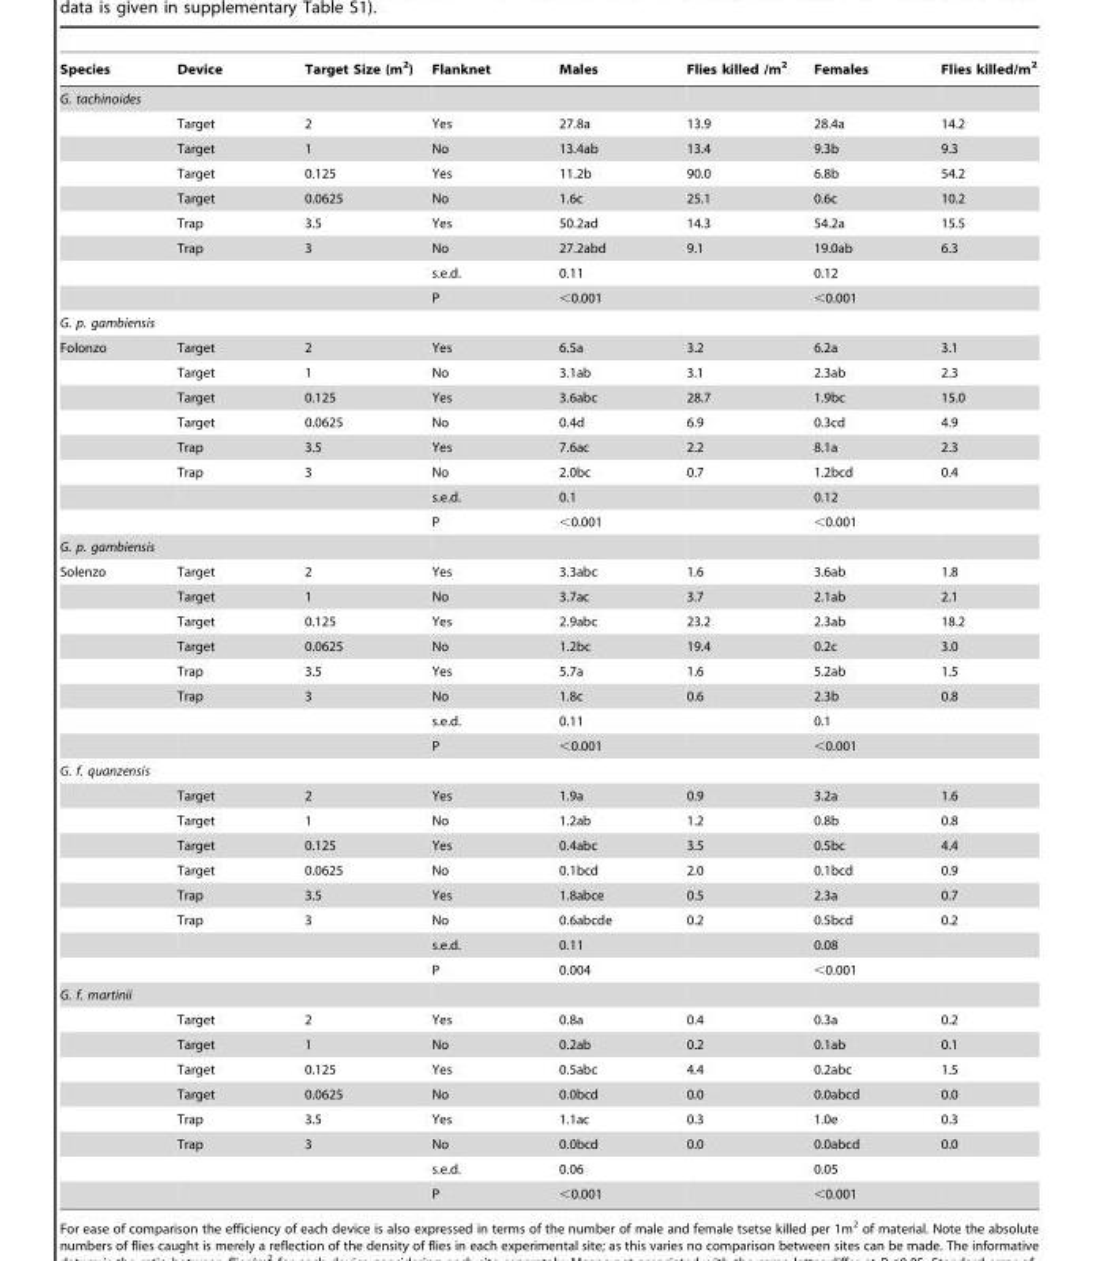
<table><thead><tr><td>Species</td><td>Device</td><td>Target Size (m<sup>2</sup>)</td><td>Flanknet</td><td>Males</td><td>Flies killed /m<sup>2</sup></td><td>Females</td><td>Flies killed/m<sup>2</sup></td></tr></thead><tbody><tr><td colspan="8">G. tachinoides</td></tr><tr><td></td><td>Target</td><td>2</td><td>Yes</td><td>27.8a</td><td>13.9</td><td>28.4a</td><td>14.2</td></tr><tr><td></td><td>Target</td><td>1</td><td>No</td><td>13.4ab</td><td>13.4</td><td>9.3b</td><td>9.3</td></tr><tr><td></td><td>Target</td><td>0.125</td><td>Yes</td><td>11.2b</td><td>90.0</td><td>6.8b</td><td>54.2</td></tr><tr><td></td><td>Target</td><td>0.0625</td><td>No</td><td>1.6c</td><td>25.1</td><td>0.6c</td><td>10.2</td></tr><tr><td></td><td>Trap</td><td>3.5</td><td>Yes</td><td>50.2ad</td><td>14.3</td><td>54.2a</td><td>15.5</td></tr><tr><td></td><td>Trap</td><td>3</td><td>No</td><td>27.2abd</td><td>9.1</td><td>19.0ab</td><td>6.3</td></tr><tr><td></td><td></td><td></td><td>s.e.d.</td><td>0.11</td><td></td><td>0.12</td><td></td></tr><tr><td></td><td></td><td></td><td>P</td><td>&lt;0.001</td><td></td><td>&lt;0.001</td><td></td></tr><tr><td colspan="8">G. p. gambiensis</td></tr><tr><td rowspan="8">Folonzo</td><td>Target</td><td>2</td><td>Yes</td><td>6.5a</td><td>3.2</td><td>6.2a</td><td>3.1</td></tr><tr><td>Target</td><td>1</td><td>No</td><td>3.1ab</td><td>3.1</td><td>2.3ab</td><td>2.3</td></tr><tr><td>Target</td><td>0.125</td><td>Yes</td><td>3.6abc</td><td>28.7</td><td>1.9bc</td><td>15.0</td></tr><tr><td>Target</td><td>0.0625</td><td>No</td><td>0.4d</td><td>6.9</td><td>0.3cd</td><td>4.9</td></tr><tr><td>Trap</td><td>3.5</td><td>Yes</td><td>7.6ac</td><td>2.2</td><td>8.1a</td><td>2.3</td></tr><tr><td>Trap</td><td>3</td><td>No</td><td>2.0bc</td><td>0.7</td><td>1.2bcd</td><td>0.4</td></tr><tr><td></td><td></td><td>s.e.d.</td><td>0.1</td><td></td><td>0.12</td><td></td></tr><tr><td></td><td></td><td>P</td><td>&lt;0.001</td><td></td><td>&lt;0.001</td><td></td></tr><tr><td colspan="8">G. p. gambiensis</td></tr><tr><td rowspan="8">Solenzo</td><td>Target</td><td>2</td><td>Yes</td><td>3.3abc</td><td>1.6</td><td>3.6ab</td><td>1.8</td></tr><tr><td>Target</td><td>1</td><td>No</td><td>3.7ac</td><td>3.7</td><td>2.1ab</td><td>2.1</td></tr><tr><td>Target</td><td>0.125</td><td>Yes</td><td>2.9abc</td><td>23.2</td><td>2.3ab</td><td>18.2</td></tr><tr><td>Target</td><td>0.0625</td><td>No</td><td>1.2bc</td><td>19.4</td><td>0.2c</td><td>3.0</td></tr><tr><td>Trap</td><td>3.5</td><td>Yes</td><td>5.7a</td><td>1.6</td><td>5.2ab</td><td>1.5</td></tr><tr><td>Trap</td><td>3</td><td>No</td><td>1.8c</td><td>0.6</td><td>2.3b</td><td>0.8</td></tr><tr><td></td><td></td><td>s.e.d.</td><td>0.11</td><td></td><td>0.1</td><td></td></tr><tr><td></td><td></td><td>P</td><td>&lt;0.001</td><td></td><td>&lt;0.001</td><td></td></tr><tr><td colspan="8">G. f. quanzensis</td></tr><tr><td></td><td>Target</td><td>2</td><td>Yes</td><td>1.9a</td><td>0.9</td><td>3.2a</td><td>1.6</td></tr><tr><td></td><td>Target</td><td>1</td><td>No</td><td>1.2ab</td><td>1.2</td><td>0.8b</td><td>0.8</td></tr><tr><td></td><td>Target</td><td>0.125</td><td>Yes</td><td>0.4abc</td><td>3.5</td><td>0.5bc</td><td>4.4</td></tr><tr><td></td><td>Target</td><td>0.0625</td><td>No</td><td>0.1bcd</td><td>2.0</td><td>0.1bcd</td><td>0.9</td></tr><tr><td></td><td>Trap</td><td>3.5</td><td>Yes</td><td>1.8abce</td><td>0.5</td><td>2.3a</td><td>0.7</td></tr><tr><td></td><td>Trap</td><td>3</td><td>No</td><td>0.6abcde</td><td>0.2</td><td>0.5bcd</td><td>0.2</td></tr><tr><td></td><td></td><td></td><td>s.e.d.</td><td>0.11</td><td></td><td>0.08</td><td></td></tr><tr><td></td><td></td><td></td><td>P</td><td>0.004</td><td></td><td>&lt;0.001</td><td></td></tr><tr><td colspan="8">G. f. martinii</td></tr><tr><td></td><td>Target</td><td>2</td><td>Yes</td><td>0.8a</td><td>0.4</td><td>0.3a</td><td>0.2</td></tr><tr><td></td><td>Target</td><td>1</td><td>No</td><td>0.2ab</td><td>0.2</td><td>0.1ab</td><td>0.1</td></tr><tr><td></td><td>Target</td><td>0.125</td><td>Yes</td><td>0.5abc</td><td>4.4</td><td>0.2abc</td><td>1.5</td></tr><tr><td></td><td>Target</td><td>0.0625</td><td>No</td><td>0.0bcd</td><td>0.0</td><td>0.0abcd</td><td>0.0</td></tr><tr><td></td><td>Trap</td><td>3.5</td><td>Yes</td><td>1.1ac</td><td>0.3</td><td>1.0e</td><td>0.3</td></tr><tr><td></td><td>Trap</td><td>3</td><td>No</td><td>0.0bcd</td><td>0.0</td><td>0.0abcd</td><td>0.0</td></tr><tr><td></td><td></td><td></td><td>s.e.d.</td><td>0.06</td><td></td><td>0.05</td><td></td></tr><tr><td></td><td></td><td></td><td>P</td><td>&lt;0.001</td><td></td><td>&lt;0.001</td><td></td></tr></tbody></table>